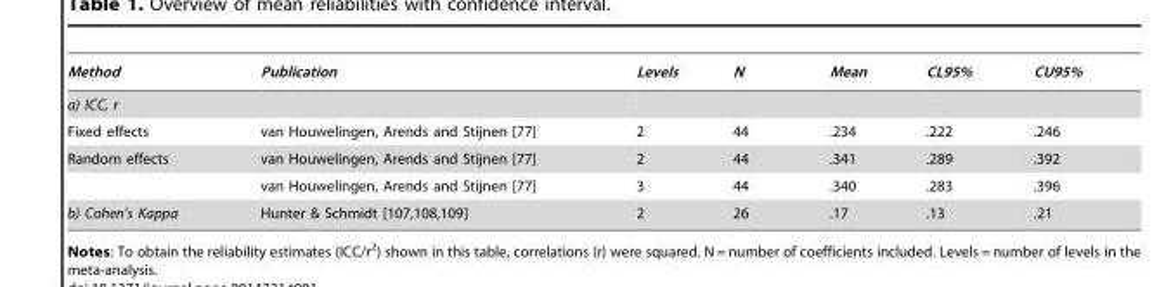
<table><thead><tr><td>Method</td><td>Publication</td><td>Levels</td><td>N</td><td>Mean</td><td>CL95%</td><td>CU95%</td></tr></thead><tbody><tr><td colspan="7">a) ICC, r</td></tr><tr><td>Fixed effects</td><td>van Houwelingen, Arends and Stijnen [77]</td><td>2</td><td>44</td><td>.234</td><td>.222</td><td>.246</td></tr><tr><td rowspan="2">Random effects</td><td>van Houwelingen, Arends and Stijnen [77]</td><td>2</td><td>44</td><td>.341</td><td>.289</td><td>.392</td></tr><tr><td>van Houwelingen, Arends and Stijnen [77]</td><td>3</td><td>44</td><td>.340</td><td>.283</td><td>.396</td></tr><tr><td>b) Cohen’s Kappa</td><td>Hunter &amp; Schmidt [107,108,109]</td><td>2</td><td>26</td><td>.17</td><td>.13</td><td>.21</td></tr></tbody></table>